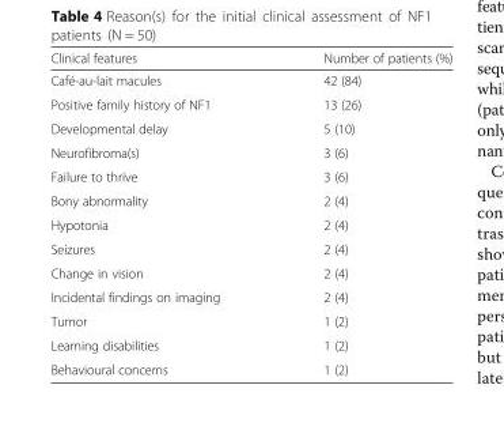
<table><thead><tr><td>Clinical features</td><td>Number of patients (%)</td></tr></thead><tbody><tr><td>Café-au-lait macules</td><td>42 (84)</td></tr><tr><td>Positive family history of NF1</td><td>13 (26)</td></tr><tr><td>Developmental delay</td><td>5 (10)</td></tr><tr><td>Neurofibroma(s)</td><td>3 (6)</td></tr><tr><td>Failure to thrive</td><td>3 (6)</td></tr><tr><td>Bony abnormality</td><td>2 (4)</td></tr><tr><td>Hypotonia</td><td>2 (4)</td></tr><tr><td>Seizures</td><td>2 (4)</td></tr><tr><td>Change in vision</td><td>2 (4)</td></tr><tr><td>Incidental findings on imaging</td><td>2 (4)</td></tr><tr><td>Tumor</td><td>1 (2)</td></tr><tr><td>Learning disabilities</td><td>1 (2)</td></tr><tr><td>Behavioural concerns</td><td>1 (2)</td></tr></tbody></table>